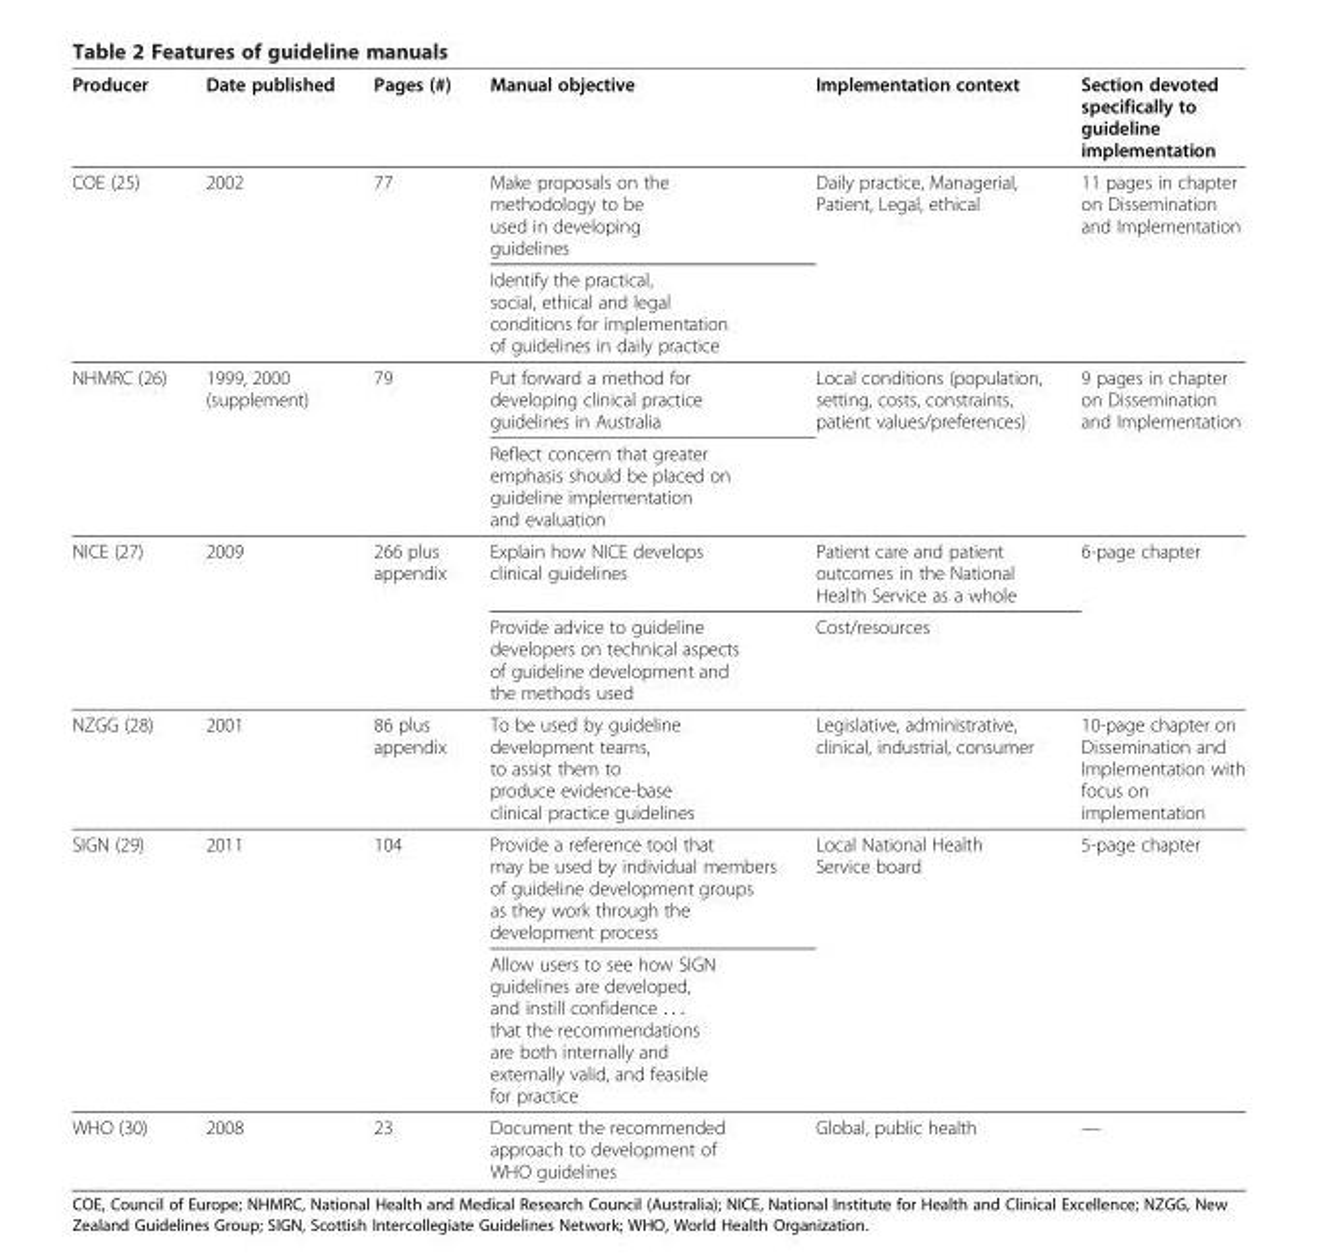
<table><thead><tr><td>Producer</td><td>Date published</td><td>Pages (#)</td><td>Manual objective</td><td>Implementation context</td><td>Section devoted specifically to guideline implementation</td></tr></thead><tbody><tr><td rowspan="2">COE (25)</td><td rowspan="2">2002</td><td rowspan="2">77</td><td>Make proposals on the methodology to be used in developing guidelines</td><td rowspan="2">Daily practice, Managerial, Patient, Legal, ethical</td><td rowspan="2">11 pages in chapter on Dissemination and Implementation</td></tr><tr><td>Identify the practical, social, ethical and legal conditions for implementation of guidelines in daily practice</td></tr><tr><td rowspan="2">NHMRC (26)</td><td rowspan="2">1999, 2000 (supplement)</td><td rowspan="2">79</td><td>Put forward a method for developing clinical practice guidelines in Australia</td><td rowspan="2">Local conditions (population, setting, costs, constraints, patient values/preferences)</td><td rowspan="2">9 pages in chapter on Dissemination and Implementation</td></tr><tr><td>Reflect concern that greater emphasis should be placed on guideline implementation and evaluation</td></tr><tr><td rowspan="2">NICE (27)</td><td rowspan="2">2009</td><td rowspan="2">266 plus appendix</td><td>Explain how NICE develops clinical guidelines</td><td>Patient care and patient outcomes in the National Health Service as a whole</td><td rowspan="2">6-page chapter</td></tr><tr><td>Provide advice to guideline developers on technical aspects of guideline development and the methods used</td><td>Cost/resources</td></tr><tr><td>NZGG (28)</td><td>2001</td><td>86 plus appendix</td><td>To be used by guideline development teams, to assist them to produce evidence-base clinical practice guidelines</td><td>Legislative, administrative, clinical, industrial, consumer</td><td>10-page chapter on Dissemination and Implementation with focus on implementation</td></tr><tr><td rowspan="2">SIGN (29)</td><td rowspan="2">2011</td><td rowspan="2">104</td><td>Provide a reference tool that may be used by individual members of guideline development groups as they work through the development process</td><td rowspan="2">Local National Health Service board</td><td rowspan="2">5-page chapter</td></tr><tr><td>Allow users to see how SIGN guidelines are developed, and instill confidence . . . that the recommendations are both internally and externally valid, and feasible for practice</td></tr><tr><td>WHO (30)</td><td>2008</td><td>23</td><td>Document the recommended approach to development of WHO guidelines</td><td>Global, public health</td><td>—</td></tr></tbody></table>